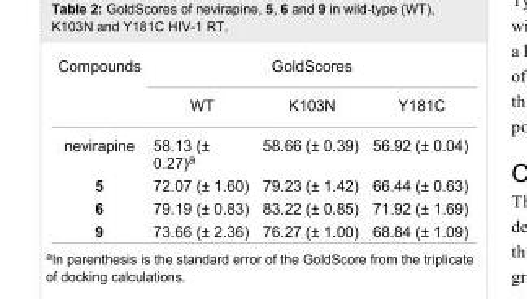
<table><tbody><tr><td rowspan="2">Compounds</td><td colspan="3">GoldScores</td></tr><tr><td>WT</td><td>K103N</td><td>Y181C</td></tr><tr><td>nevirapine</td><td>58.13 (± 0.27)<sup>a</sup></td><td>58.66 (± 0.39)</td><td>56.92 (± 0.04)</td></tr><tr><td>5</td><td>72.07 (± 1.60)</td><td>79.23 (± 1.42)</td><td>66.44 (± 0.63)</td></tr><tr><td>6</td><td>79.19 (± 0.83)</td><td>83.22 (± 0.85)</td><td>71.92 (± 1.69)</td></tr><tr><td>9</td><td>73.66 (± 2.36)</td><td>76.27 (± 1.00)</td><td>68.84 (± 1.09)</td></tr></tbody></table>